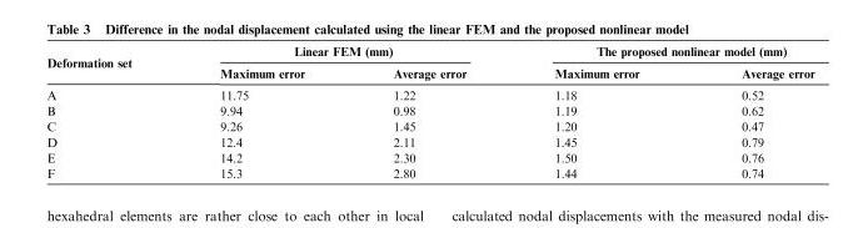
<table><thead><tr><td rowspan="2">Deformation set</td><td colspan="2">Linear FEM (mm)</td><td colspan="2">The proposed nonlinear model (mm)</td></tr><tr><td>Maximum error</td><td>Average error</td><td>Maximum error</td><td>Average error</td></tr></thead><tbody><tr><td>A</td><td>11.75</td><td>1.22</td><td>1.18</td><td>0.52</td></tr><tr><td>B</td><td>9.94</td><td>0.98</td><td>1.19</td><td>0.62</td></tr><tr><td>C</td><td>9.26</td><td>1.45</td><td>1.20</td><td>0.47</td></tr><tr><td>D</td><td>12.4</td><td>2.11</td><td>1.45</td><td>0.79</td></tr><tr><td>E</td><td>14.2</td><td>2.30</td><td>1.50</td><td>0.76</td></tr><tr><td>F</td><td>15.3</td><td>2.80</td><td>1.44</td><td>0.74</td></tr></tbody></table>